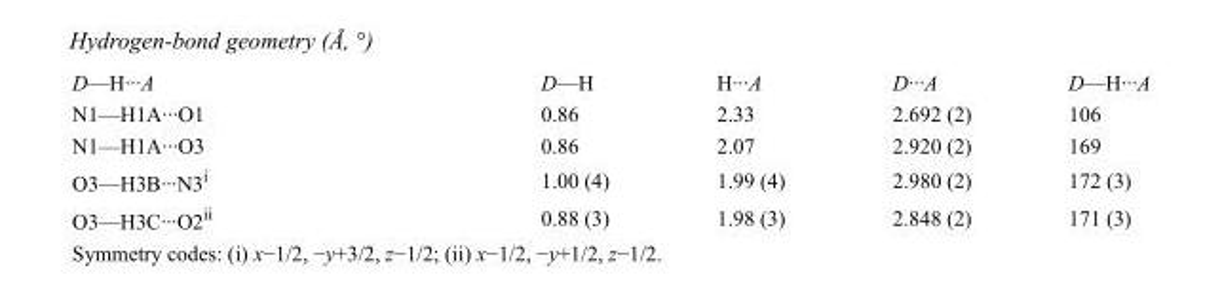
<table><tbody><tr><td>D—H···A</td><td>D—H</td><td>H···A</td><td>D···A</td><td>D—H···A</td></tr><tr><td>N1—H1A···O1</td><td>0.86</td><td>2.33</td><td>2.692 (2)</td><td>106</td></tr><tr><td>N1—H1A···O3</td><td>0.86</td><td>2.07</td><td>2.920 (2)</td><td>169</td></tr><tr><td>O3—H3B···N3<sup>i</sup></td><td>1.00 (4)</td><td>1.99 (4)</td><td>2.980 (2)</td><td>172 (3)</td></tr><tr><td>O3—H3C···O2<sup>ii</sup></td><td>0.88 (3)</td><td>1.98 (3)</td><td>2.848 (2)</td><td>171 (3)</td></tr></tbody></table>